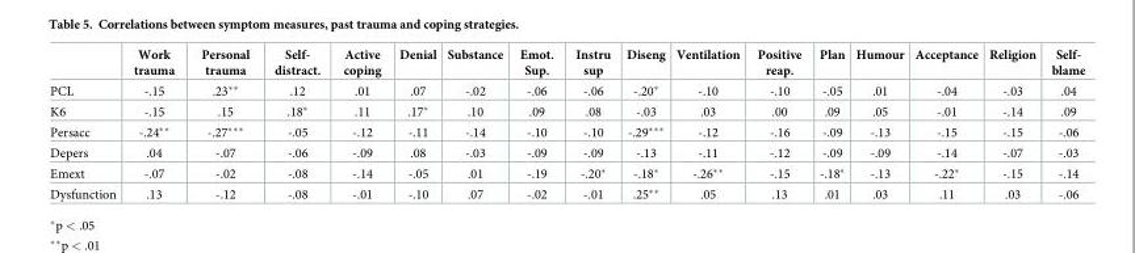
<table><thead><tr><td></td><td>Work trauma</td><td>Personal trauma</td><td>Self- distract.</td><td>Active coping</td><td>Denial</td><td>Substance</td><td>Emot. Sup.</td><td>Instru sup</td><td>Diseng</td><td>Ventilation</td><td>Positive reap.</td><td>Plan</td><td>Humour</td><td>Acceptance</td><td>Religion</td><td>Self- blame</td></tr></thead><tbody><tr><td>PCL</td><td>-.15</td><td>.23**</td><td>.12</td><td>.01</td><td>.07</td><td>-.02</td><td>-.06</td><td>-.06</td><td>-.20*</td><td>-.10</td><td>-.10</td><td>-.05</td><td>.01</td><td>-.04</td><td>-.03</td><td>.04</td></tr><tr><td>K6</td><td>-.15</td><td>.15</td><td>.18*</td><td>.11</td><td>.17*</td><td>.10</td><td>.09</td><td>.08</td><td>-.03</td><td>.03</td><td>.00</td><td>.09</td><td>.05</td><td>-.01</td><td>-.14</td><td>.09</td></tr><tr><td>Persacc</td><td>-.24**</td><td>-.27***</td><td>-.05</td><td>-.12</td><td>-.11</td><td>-.14</td><td>-.10</td><td>-.10</td><td>-.29***</td><td>-.12</td><td>-.16</td><td>-.09</td><td>-.13</td><td>-.15</td><td>-.15</td><td>-.06</td></tr><tr><td>Depers</td><td>.04</td><td>-.07</td><td>-.06</td><td>-.09</td><td>.08</td><td>-.03</td><td>-.09</td><td>-.09</td><td>-.13</td><td>-.11</td><td>-.12</td><td>-.09</td><td>-.09</td><td>-.14</td><td>-.07</td><td>-.03</td></tr><tr><td>Emext</td><td>-.07</td><td>-.02</td><td>-.08</td><td>-.14</td><td>-.05</td><td>.01</td><td>-.19</td><td>-.20*</td><td>-.18*</td><td>-.26**</td><td>-.15</td><td>-.18*</td><td>-.13</td><td>-.22*</td><td>-.15</td><td>-.14</td></tr><tr><td>Dysfunction</td><td>.13</td><td>-.12</td><td>-.08</td><td>-.01</td><td>-.10</td><td>.07</td><td>-.02</td><td>-.01</td><td>.25**</td><td>.05</td><td>.13</td><td>.01</td><td>.03</td><td>.11</td><td>.03</td><td>-.06</td></tr></tbody></table>